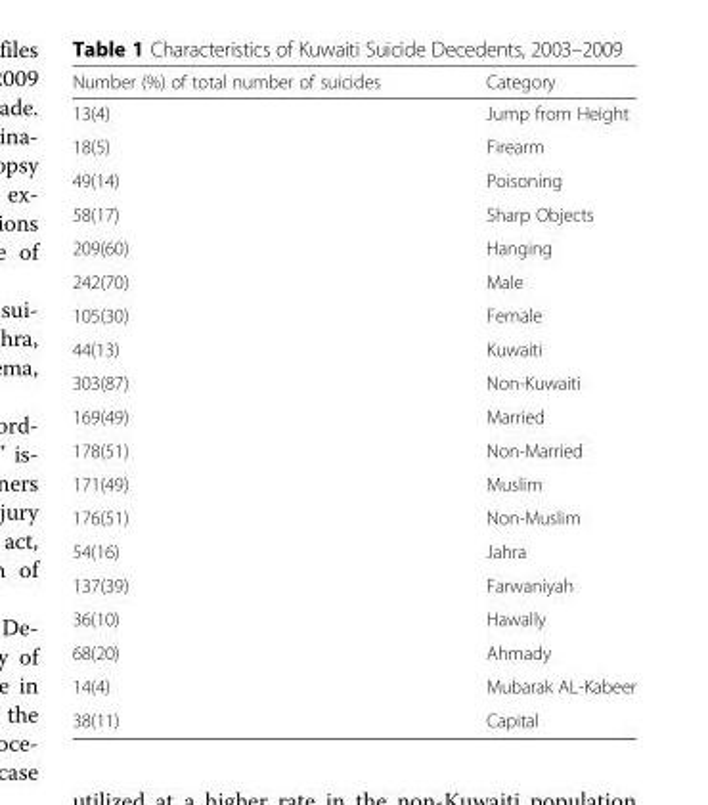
<table><thead><tr><td>Number (%) of total number of suicides</td><td>Category</td></tr></thead><tbody><tr><td>13(4)</td><td>Jump from Height</td></tr><tr><td>18(5)</td><td>Firearm</td></tr><tr><td>49(14)</td><td>Poisoning</td></tr><tr><td>58(17)</td><td>Sharp Objects</td></tr><tr><td>209(60)</td><td>Hanging</td></tr><tr><td>242(70)</td><td>Male</td></tr><tr><td>105(30)</td><td>Female</td></tr><tr><td>44(13)</td><td>Kuwaiti</td></tr><tr><td>303(87)</td><td>Non-Kuwaiti</td></tr><tr><td>169(49)</td><td>Married</td></tr><tr><td>178(51)</td><td>Non-Married</td></tr><tr><td>171(49)</td><td>Muslim</td></tr><tr><td>176(51)</td><td>Non-Muslim</td></tr><tr><td>54(16)</td><td>Jahra</td></tr><tr><td>137(39)</td><td>Farwaniyah</td></tr><tr><td>36(10)</td><td>Hawally</td></tr><tr><td>68(20)</td><td>Ahmady</td></tr><tr><td>14(4)</td><td>Mubarak AL-Kabeer</td></tr><tr><td>38(11)</td><td>Capital</td></tr></tbody></table>